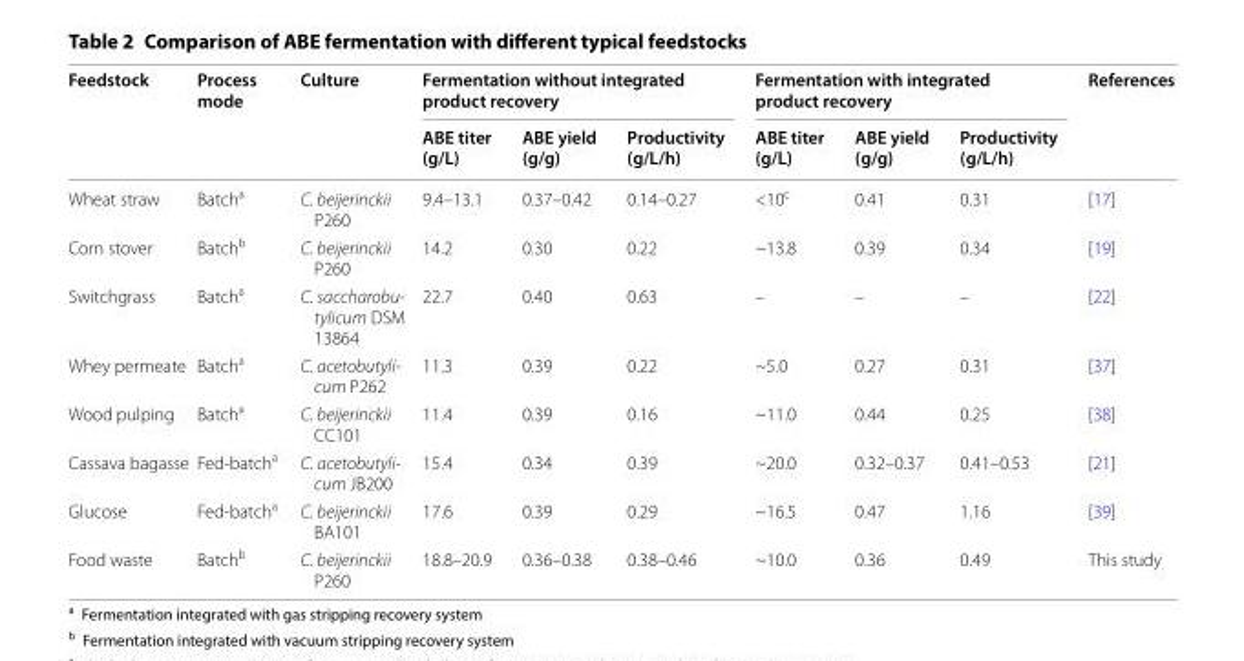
<table><thead><tr><td rowspan="2">Feedstock</td><td rowspan="2">Process mode</td><td rowspan="2">Culture</td><td colspan="3">Fermentation without integrated product recovery</td><td colspan="3">Fermentation with integrated product recovery</td><td rowspan="2">References</td></tr><tr><td>ABE titer (g/L)</td><td>ABE yield (g/g)</td><td>Productivity (g/L/h)</td><td>ABE titer (g/L)</td><td>ABE yield (g/g)</td><td>Productivity (g/L/h)</td></tr></thead><tbody><tr><td>Wheat straw</td><td>Batch<sup>a</sup></td><td>C. beijerinckii P260</td><td>9.4–13.1</td><td>0.37–0.42</td><td>0.14–0.27</td><td>&lt;10<sup>c</sup></td><td>0.41</td><td>0.31</td><td>[17]</td></tr><tr><td>Corn stover</td><td>Batch<sup>b</sup></td><td>C. beijerinckii P260</td><td>14.2</td><td>0.30</td><td>0.22</td><td>~13.8</td><td>0.39</td><td>0.34</td><td>[19]</td></tr><tr><td>Switchgrass</td><td>Batch<sup>a</sup></td><td>C. saccharobu- tylicum DSM 13864</td><td>22.7</td><td>0.40</td><td>0.63</td><td>–</td><td>–</td><td>–</td><td>[22]</td></tr><tr><td>Whey permeate</td><td>Batch<sup>a</sup></td><td>C. acetobutyli- cum P262</td><td>11.3</td><td>0.39</td><td>0.22</td><td>~5.0</td><td>0.27</td><td>0.31</td><td>[37]</td></tr><tr><td>Wood pulping</td><td>Batch<sup>a</sup></td><td>C. beijerinckii CC101</td><td>11.4</td><td>0.39</td><td>0.16</td><td>~11.0</td><td>0.44</td><td>0.25</td><td>[38]</td></tr><tr><td>Cassava bagasse</td><td>Fed-batch<sup>a</sup></td><td>C. acetobutyli- cum JB200</td><td>15.4</td><td>0.34</td><td>0.39</td><td>~20.0</td><td>0.32–0.37</td><td>0.41–0.53</td><td>[21]</td></tr><tr><td>Glucose</td><td>Fed-batch<sup>a</sup></td><td>C. beijerinckii BA101</td><td>17.6</td><td>0.39</td><td>0.29</td><td>~16.5</td><td>0.47</td><td>1.16</td><td>[39]</td></tr><tr><td>Food waste</td><td>Batch<sup>b</sup></td><td>C. beijerinckii P260</td><td>18.8–20.9</td><td>0.36–0.38</td><td>0.38–0.46</td><td>~10.0</td><td>0.36</td><td>0.49</td><td>This study</td></tr></tbody></table>